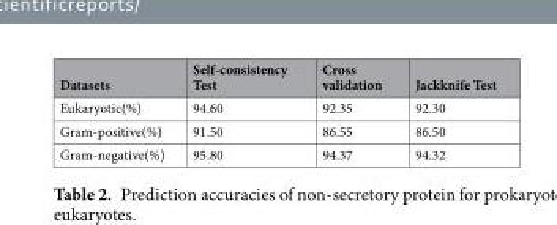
<table><thead><tr><td>Datasets</td><td>Self-consistency Test</td><td>Cross validation</td><td>Jackknife Test</td></tr></thead><tbody><tr><td>Eukaryotic(%)</td><td>94.60</td><td>92.35</td><td>92.30</td></tr><tr><td>Gram-positive(%)</td><td>91.50</td><td>86.55</td><td>86.50</td></tr><tr><td>Gram-negative(%)</td><td>95.80</td><td>94.37</td><td>94.32</td></tr></tbody></table>